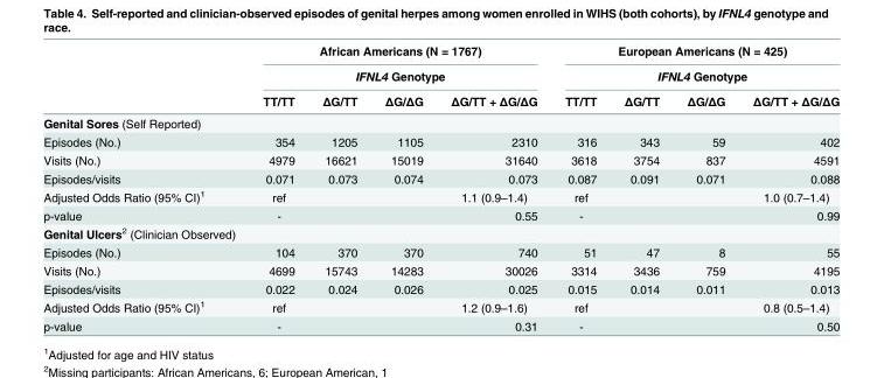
<table><thead><tr><td rowspan="3"></td><td rowspan="2" colspan="4">African Americans (N = 1767) IFNL4 Genotype</td><td rowspan="2" colspan="4">European Americans (N = 425) IFNL4 Genotype</td></tr><tr></tr><tr><td>TT/TT</td><td>ΔG/TT</td><td>ΔG/ΔG</td><td>ΔG/TT + ΔG/ΔG</td><td>TT/TT</td><td>ΔG/TT</td><td>ΔG/ΔG</td><td>ΔG/TT + ΔG/ΔG</td></tr></thead><tbody><tr><td colspan="9">Genital Sores (Self Reported)</td></tr><tr><td>Episodes (No.)</td><td>354</td><td>1205</td><td>1105</td><td>2310</td><td>316</td><td>343</td><td>59</td><td>402</td></tr><tr><td>Visits (No.)</td><td>4979</td><td>16621</td><td>15019</td><td>31640</td><td>3618</td><td>3754</td><td>837</td><td>4591</td></tr><tr><td>Episodes/visits</td><td>0.071</td><td>0.073</td><td>0.074</td><td>0.073</td><td>0.087</td><td>0.091</td><td>0.071</td><td>0.088</td></tr><tr><td>Adjusted Odds Ratio (95% CI)<sup>1</sup></td><td>ref</td><td></td><td></td><td>1.1 (0.9–1.4)</td><td>ref</td><td></td><td></td><td>1.0 (0.7–1.4)</td></tr><tr><td>p-value</td><td>-</td><td></td><td></td><td>0.55</td><td>-</td><td></td><td></td><td>0.99</td></tr><tr><td colspan="9">Genital Ulcers<sup>2</sup> (Clinician Observed)</td></tr><tr><td>Episodes (No.)</td><td>104</td><td>370</td><td>370</td><td>740</td><td>51</td><td>47</td><td>8</td><td>55</td></tr><tr><td>Visits (No.)</td><td>4699</td><td>15743</td><td>14283</td><td>30026</td><td>3314</td><td>3436</td><td>759</td><td>4195</td></tr><tr><td>Episodes/visits</td><td>0.022</td><td>0.024</td><td>0.026</td><td>0.025</td><td>0.015</td><td>0.014</td><td>0.011</td><td>0.013</td></tr><tr><td>Adjusted Odds Ratio (95% CI)<sup>1</sup></td><td>ref</td><td></td><td></td><td>1.2 (0.9–1.6)</td><td>ref</td><td></td><td></td><td>0.8 (0.5–1.4)</td></tr><tr><td>p-value</td><td>-</td><td></td><td></td><td>0.31</td><td>-</td><td></td><td></td><td>0.50</td></tr></tbody></table>